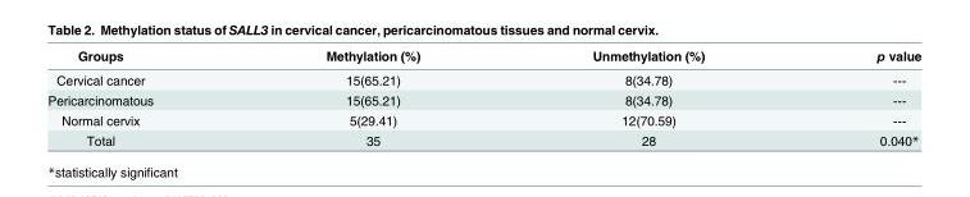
<table><thead><tr><td>Groups</td><td>Methylation (%)</td><td>Unmethylation (%)</td><td>p value</td></tr></thead><tbody><tr><td>Cervical cancer</td><td>15(65.21)</td><td>8(34.78)</td><td>---</td></tr><tr><td>Pericarcinomatous</td><td>15(65.21)</td><td>8(34.78)</td><td>---</td></tr><tr><td>Normal cervix</td><td>5(29.41)</td><td>12(70.59)</td><td>---</td></tr><tr><td>Total</td><td>35</td><td>28</td><td>0.040*</td></tr></tbody></table>